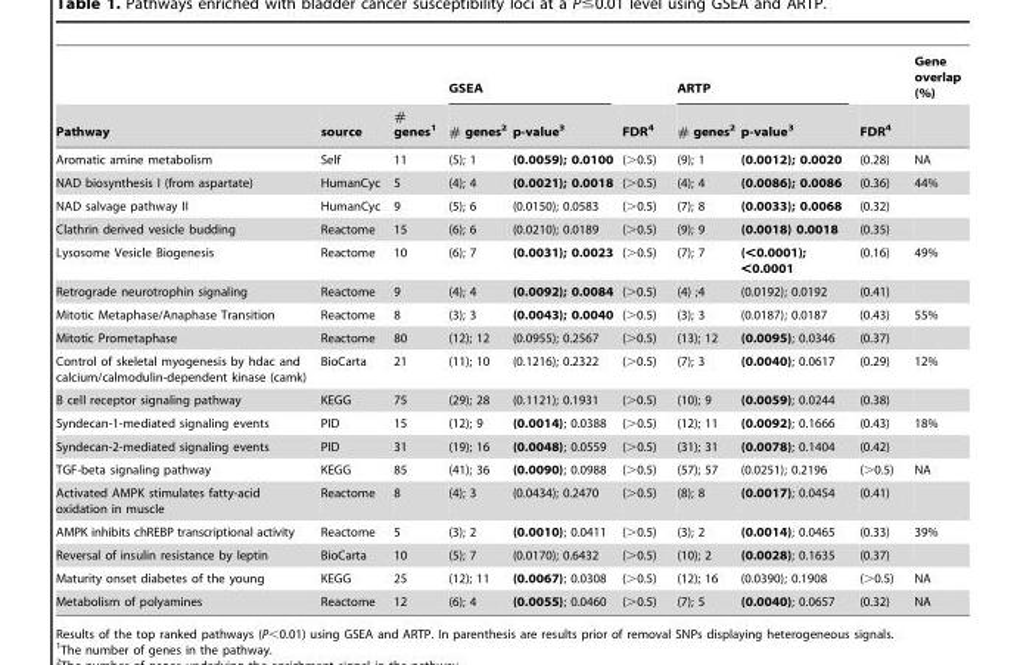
<table><thead><tr><td rowspan="2">Pathway</td><td rowspan="2">source</td><td rowspan="2"># genes<sup>1</sup></td><td colspan="2">GSEA</td><td rowspan="2">FDR<sup>4</sup></td><td colspan="2">ARTP</td><td rowspan="2">FDR<sup>4</sup></td><td rowspan="2">Gene overlap (%)</td></tr><tr><td># genes<sup>2</sup></td><td>p-value<sup>3</sup></td><td># genes<sup>2</sup></td><td>p-value<sup>3</sup></td></tr></thead><tbody><tr><td>Aromatic amine metabolism</td><td>Self</td><td>11</td><td>(5); 1</td><td>(0.0059); 0.0100</td><td>(&gt;0.5)</td><td>(9); 1</td><td>(0.0012); 0.0020</td><td>(0.28)</td><td>NA</td></tr><tr><td>NAD biosynthesis I (from aspartate)</td><td>HumanCyc</td><td>5</td><td>(4); 4</td><td>(0.0021); 0.0018</td><td>(&gt;0.5)</td><td>(4); 4</td><td>(0.0086); 0.0086</td><td>(0.36)</td><td>44%</td></tr><tr><td>NAD salvage pathway II</td><td>HumanCyc</td><td>9</td><td>(5); 6</td><td>(0.0150); 0.0583</td><td>(&gt;0.5)</td><td>(7); 8</td><td>(0.0033); 0.0068</td><td>(0.32)</td><td></td></tr><tr><td>Clathrin derived vesicle budding</td><td>Reactome</td><td>15</td><td>(6); 6</td><td>(0.0210); 0.0189</td><td>(&gt;0.5)</td><td>(9); 9</td><td>(0.0018) 0.0018</td><td>(0.35)</td><td></td></tr><tr><td>Lysosome Vesicle Biogenesis</td><td>Reactome</td><td>10</td><td>(6); 7</td><td>(0.0031); 0.0023</td><td>(&gt;0.5)</td><td>(7); 7</td><td>(&lt;0.0001); &lt;0.0001</td><td>(0.16)</td><td>49%</td></tr><tr><td>Retrograde neurotrophin signaling</td><td>Reactome</td><td>9</td><td>(4); 4</td><td>(0.0092); 0.0084</td><td>(&gt;0.5)</td><td>(4) ;4</td><td>(0.0192); 0.0192</td><td>(0.41)</td><td></td></tr><tr><td>Mitotic Metaphase/Anaphase Transition</td><td>Reactome</td><td>8</td><td>(3); 3</td><td>(0.0043); 0.0040</td><td>(&gt;0.5)</td><td>(3); 3</td><td>(0.0187); 0.0187</td><td>(0.43)</td><td>55%</td></tr><tr><td>Mitotic Prometaphase</td><td>Reactome</td><td>80</td><td>(12); 12</td><td>(0.0955); 0.2567</td><td>(&gt;0.5)</td><td>(13); 12</td><td>(0.0095); 0.0346</td><td>(0.37)</td><td></td></tr><tr><td>Control of skeletal myogenesis by hdac and calcium/calmodulin-dependent kinase (camk)</td><td>BioCarta</td><td>21</td><td>(11); 10</td><td>(0.1216); 0.2322</td><td>(&gt;0.5)</td><td>(7); 3</td><td>(0.0040); 0.0617</td><td>(0.29)</td><td>12%</td></tr><tr><td>B cell receptor signaling pathway</td><td>KEGG</td><td>75</td><td>(29); 28</td><td>(0.1121); 0.1931</td><td>(&gt;0.5)</td><td>(10); 9</td><td>(0.0059); 0.0244</td><td>(0.38)</td><td></td></tr><tr><td>Syndecan-1-mediated signaling events</td><td>PID</td><td>15</td><td>(12); 9</td><td>(0.0014); 0.0388</td><td>(&gt;0.5)</td><td>(12); 11</td><td>(0.0092); 0.1666</td><td>(0.43)</td><td>18%</td></tr><tr><td>Syndecan-2-mediated signaling events</td><td>PID</td><td>31</td><td>(19); 16</td><td>(0.0048); 0.0559</td><td>(&gt;0.5)</td><td>(31); 31</td><td>(0.0078); 0.1404</td><td>(0.42)</td><td></td></tr><tr><td>TGF-beta signaling pathway</td><td>KEGG</td><td>85</td><td>(41); 36</td><td>(0.0090); 0.0988</td><td>(&gt;0.5)</td><td>(57); 57</td><td>(0.0251); 0.2196</td><td>(&gt;0.5)</td><td>NA</td></tr><tr><td>Activated AMPK stimulates fatty-acid oxidation in muscle</td><td>Reactome</td><td>8</td><td>(4); 3</td><td>(0.0434); 0.2470</td><td>(&gt;0.5)</td><td>(8); 8</td><td>(0.0017); 0.0454</td><td>(0.41)</td><td></td></tr><tr><td>AMPK inhibits chREBP transcriptional activity</td><td>Reactome</td><td>5</td><td>(3); 2</td><td>(0.0010); 0.0411</td><td>(&gt;0.5)</td><td>(3); 2</td><td>(0.0014); 0.0465</td><td>(0.33)</td><td>39%</td></tr><tr><td>Reversal of insulin resistance by leptin</td><td>BioCarta</td><td>10</td><td>(5); 7</td><td>(0.0170); 0.6432</td><td>(&gt;0.5)</td><td>(10); 2</td><td>(0.0028); 0.1635</td><td>(0.37)</td><td></td></tr><tr><td>Maturity onset diabetes of the young</td><td>KEGG</td><td>25</td><td>(12); 11</td><td>(0.0067); 0.0308</td><td>(&gt;0.5)</td><td>(12); 16</td><td>(0.0390); 0.1908</td><td>(&gt;0.5)</td><td>NA</td></tr><tr><td>Metabolism of polyamines</td><td>Reactome</td><td>12</td><td>(6); 4</td><td>(0.0055); 0.0460</td><td>(&gt;0.5)</td><td>(7); 5</td><td>(0.0040); 0.0657</td><td>(0.32)</td><td>NA</td></tr></tbody></table>